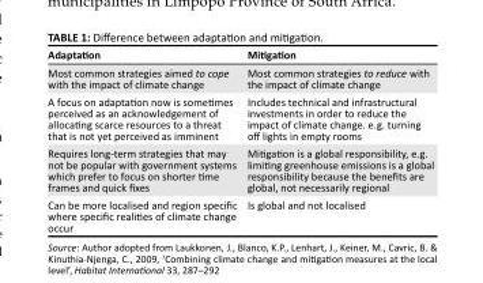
<table><thead><tr><td>Adaptation</td><td>Mitigation</td></tr></thead><tbody><tr><td>Most common strategies aimed to cope with the impact of climate change</td><td>Most common strategies to reduce with the impact of climate change</td></tr><tr><td>A focus on adaptation now is sometimes perceived as an acknowledgement of allocating scarce resources to a threat that is not yet perceived as imminent</td><td>Includes technical and infrastructural investments in order to reduce the impact of climate change. e.g. turning off lights in empty rooms</td></tr><tr><td>Requires long-term strategies that may not be popular with government systems which prefer to focus on shorter time frames and quick fixes</td><td>Mitigation is a global responsibility, e.g. limiting greenhouse emissions is a global responsibility because the benefits are global, not necessarily regional</td></tr><tr><td>Can be more localised and region specific where specific realities of climate change occur</td><td>Is global and not localised</td></tr></tbody></table>